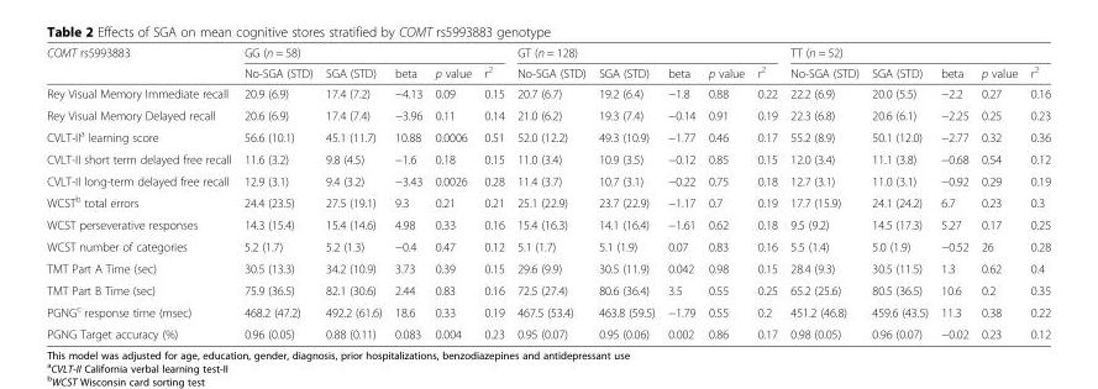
<table><thead><tr><td rowspan="2">COMT rs5993883</td><td colspan="5">GG (n = 58)</td><td colspan="5">GT (n = 128)</td><td colspan="5">TT (n = 52)</td></tr><tr><td>No-SGA (STD)</td><td>SGA (STD)</td><td>beta</td><td>p value</td><td>r<sup>2</sup></td><td>No-SGA (STD)</td><td>SGA (STD)</td><td>beta</td><td>p value</td><td>r<sup>2</sup></td><td>No-SGA (STD)</td><td>SGA (STD)</td><td>beta</td><td>p value</td><td>r<sup>2</sup></td></tr></thead><tbody><tr><td>Rey Visual Memory Immediate recall</td><td>20.9 (6.9)</td><td>17.4 (7.2)</td><td>−4.13</td><td>0.09</td><td>0.15</td><td>20.7 (6.7)</td><td>19.2 (6.4)</td><td>−1.8</td><td>0.88</td><td>0.22</td><td>22.2 (6.9)</td><td>20.0 (5.5)</td><td>−2.2</td><td>0.27</td><td>0.16</td></tr><tr><td>Rey Visual Memory Delayed recall</td><td>20.6 (6.9)</td><td>17.4 (7.4)</td><td>−3.96</td><td>0.11</td><td>0.14</td><td>21.0 (6.2)</td><td>19.3 (7.4)</td><td>−0.14</td><td>0.91</td><td>0.19</td><td>22.3 (6.8)</td><td>20.6 (6.1)</td><td>−2.25</td><td>0.25</td><td>0.23</td></tr><tr><td>CVLT-II<sup>a</sup> learning score</td><td>56.6 (10.1)</td><td>45.1 (11.7)</td><td>10.88</td><td>0.0006</td><td>0.51</td><td>52.0 (12.2)</td><td>49.3 (10.9)</td><td>−1.77</td><td>0.46</td><td>0.17</td><td>55.2 (8.9)</td><td>50.1 (12.0)</td><td>−2.77</td><td>0.32</td><td>0.36</td></tr><tr><td>CVLT-II short term delayed free recall</td><td>11.6 (3.2)</td><td>9.8 (4.5)</td><td>−1.6</td><td>0.18</td><td>0.15</td><td>11.0 (3.4)</td><td>10.9 (3.5)</td><td>−0.12</td><td>0.85</td><td>0.15</td><td>12.0 (3.4)</td><td>11.1 (3.8)</td><td>−0.68</td><td>0.54</td><td>0.12</td></tr><tr><td>CVLT-II long-term delayed free recall</td><td>12.9 (3.1)</td><td>9.4 (3.2)</td><td>−3.43</td><td>0.0026</td><td>0.28</td><td>11.4 (3.7)</td><td>10.7 (3.1)</td><td>−0.22</td><td>0.75</td><td>0.18</td><td>12.7 (3.1)</td><td>11.0 (3.1)</td><td>−0.92</td><td>0.29</td><td>0.19</td></tr><tr><td>WCST<sup>b</sup> total errors</td><td>24.4 (23.5)</td><td>27.5 (19.1)</td><td>9.3</td><td>0.21</td><td>0.21</td><td>25.1 (22.9)</td><td>23.7 (22.9)</td><td>−1.17</td><td>0.7</td><td>0.19</td><td>17.7 (15.9)</td><td>24.1 (24.2)</td><td>6.7</td><td>0.23</td><td>0.3</td></tr><tr><td>WCST perseverative responses</td><td>14.3 (15.4)</td><td>15.4 (14.6)</td><td>4.98</td><td>0.33</td><td>0.16</td><td>15.4 (16.3)</td><td>14.1 (16.4)</td><td>−1.61</td><td>0.62</td><td>0.18</td><td>9.5 (9.2)</td><td>14.5 (17.3)</td><td>5.27</td><td>0.17</td><td>0.25</td></tr><tr><td>WCST number of categories</td><td>5.2 (1.7)</td><td>5.2 (1.3)</td><td>−0.4</td><td>0.47</td><td>0.12</td><td>5.1 (1.7)</td><td>5.1 (1.9)</td><td>0.07</td><td>0.83</td><td>0.16</td><td>5.5 (1.4)</td><td>5.0 (1.9)</td><td>−0.52</td><td>26</td><td>0.28</td></tr><tr><td>TMT Part A Time (sec)</td><td>30.5 (13.3)</td><td>34.2 (10.9)</td><td>3.73</td><td>0.39</td><td>0.15</td><td>29.6 (9.9)</td><td>30.5 (11.9)</td><td>0.042</td><td>0.98</td><td>0.15</td><td>28.4 (9.3)</td><td>30.5 (11.5)</td><td>1.3</td><td>0.62</td><td>0.4</td></tr><tr><td>TMT Part B Time (sec)</td><td>75.9 (36.5)</td><td>82.1 (30.6)</td><td>2.44</td><td>0.83</td><td>0.16</td><td>72.5 (27.4)</td><td>80.6 (36.4)</td><td>3.5</td><td>0.55</td><td>0.25</td><td>65.2 (25.6)</td><td>80.5 (36.5)</td><td>10.6</td><td>0.2</td><td>0.35</td></tr><tr><td>PGNG<sup>c</sup> response time (msec)</td><td>468.2 (47.2)</td><td>492.2 (61.6)</td><td>18.6</td><td>0.33</td><td>0.19</td><td>467.5 (53.4)</td><td>463.8 (59.5)</td><td>−1.79</td><td>0.55</td><td>0.2</td><td>451.2 (46.8)</td><td>459.6 (43.5)</td><td>11.3</td><td>0.38</td><td>0.22</td></tr><tr><td>PGNG Target accuracy (%)</td><td>0.96 (0.05)</td><td>0.88 (0.11)</td><td>0.083</td><td>0.004</td><td>0.23</td><td>0.95 (0.07)</td><td>0.95 (0.06)</td><td>0.002</td><td>0.86</td><td>0.17</td><td>0.98 (0.05)</td><td>0.96 (0.07)</td><td>−0.02</td><td>0.23</td><td>0.12</td></tr></tbody></table>